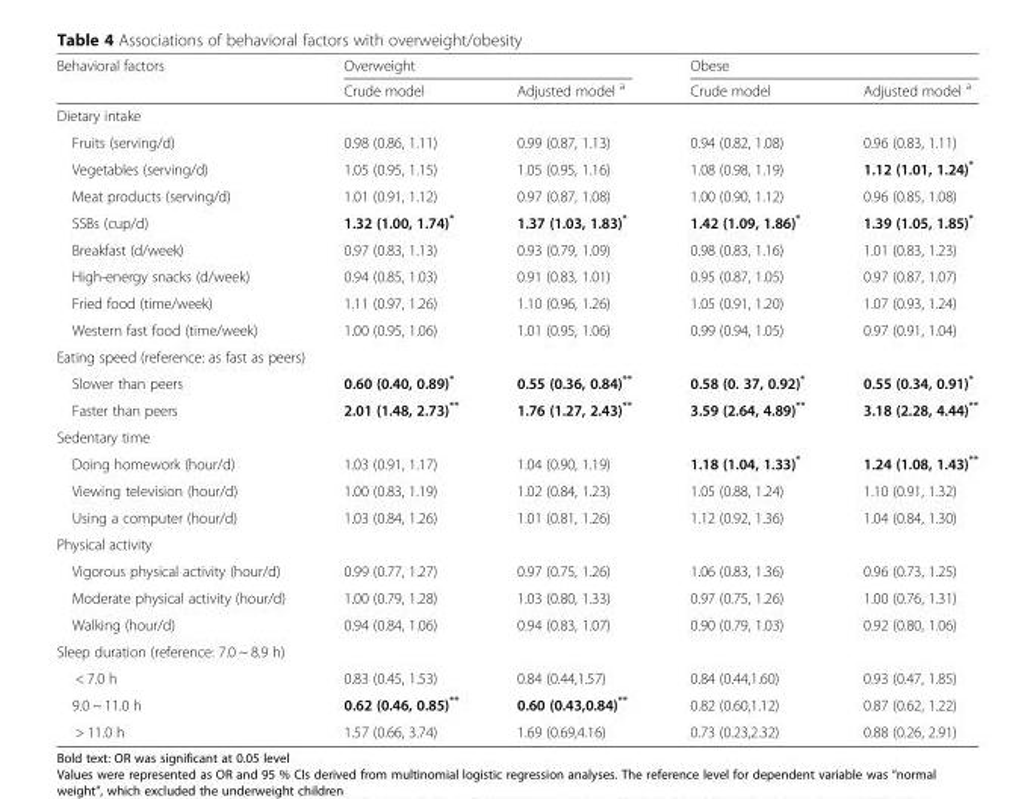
<table><thead><tr><td rowspan="2">Behavioral factors</td><td colspan="2">Overweight</td><td colspan="2">Obese</td></tr><tr><td>Crude model</td><td>Adjusted model <sup>a</sup></td><td>Crude model</td><td>Adjusted model <sup>a</sup></td></tr></thead><tbody><tr><td colspan="5">Dietary intake</td></tr><tr><td>Fruits (serving/d)</td><td>0.98 (0.86, 1.11)</td><td>0.99 (0.87, 1.13)</td><td>0.94 (0.82, 1.08)</td><td>0.96 (0.83, 1.11)</td></tr><tr><td>Vegetables (serving/d)</td><td>1.05 (0.95, 1.15)</td><td>1.05 (0.95, 1.16)</td><td>1.08 (0.98, 1.19)</td><td>1.12 (1.01, 1.24)*</td></tr><tr><td>Meat products (serving/d)</td><td>1.01 (0.91, 1.12)</td><td>0.97 (0.87, 1.08)</td><td>1.00 (0.90, 1.12)</td><td>0.96 (0.85, 1.08)</td></tr><tr><td>SSBs (cup/d)</td><td>1.32 (1.00, 1.74)*</td><td>1.37 (1.03, 1.83)*</td><td>1.42 (1.09, 1.86)*</td><td>1.39 (1.05, 1.85)*</td></tr><tr><td>Breakfast (d/week)</td><td>0.97 (0.83, 1.13)</td><td>0.93 (0.79, 1.09)</td><td>0.98 (0.83, 1.16)</td><td>1.01 (0.83, 1.23)</td></tr><tr><td>High-energy snacks (d/week)</td><td>0.94 (0.85, 1.03)</td><td>0.91 (0.83, 1.01)</td><td>0.95 (0.87, 1.05)</td><td>0.97 (0.87, 1.07)</td></tr><tr><td>Fried food (time/week)</td><td>1.11 (0.97, 1.26)</td><td>1.10 (0.96, 1.26)</td><td>1.05 (0.91, 1.20)</td><td>1.07 (0.93, 1.24)</td></tr><tr><td>Western fast food (time/week)</td><td>1.00 (0.95, 1.06)</td><td>1.01 (0.95, 1.06)</td><td>0.99 (0.94, 1.05)</td><td>0.97 (0.91, 1.04)</td></tr><tr><td colspan="5">Eating speed (reference: as fast as peers)</td></tr><tr><td>Slower than peers</td><td>0.60 (0.40, 0.89)*</td><td>0.55 (0.36, 0.84)**</td><td>0.58 (0. 37, 0.92)*</td><td>0.55 (0.34, 0.91)*</td></tr><tr><td>Faster than peers</td><td>2.01 (1.48, 2.73)**</td><td>1.76 (1.27, 2.43)**</td><td>3.59 (2.64, 4.89)**</td><td>3.18 (2.28, 4.44)**</td></tr><tr><td colspan="5">Sedentary time</td></tr><tr><td>Doing homework (hour/d)</td><td>1.03 (0.91, 1.17)</td><td>1.04 (0.90, 1.19)</td><td>1.18 (1.04, 1.33)*</td><td>1.24 (1.08, 1.43)**</td></tr><tr><td>Viewing television (hour/d)</td><td>1.00 (0.83, 1.19)</td><td>1.02 (0.84, 1.23)</td><td>1.05 (0.88, 1.24)</td><td>1.10 (0.91, 1.32)</td></tr><tr><td>Using a computer (hour/d)</td><td>1.03 (0.84, 1.26)</td><td>1.01 (0.81, 1.26)</td><td>1.12 (0.92, 1.36)</td><td>1.04 (0.84, 1.30)</td></tr><tr><td colspan="5">Physical activity</td></tr><tr><td>Vigorous physical activity (hour/d)</td><td>0.99 (0.77, 1.27)</td><td>0.97 (0.75, 1.26)</td><td>1.06 (0.83, 1.36)</td><td>0.96 (0.73, 1.25)</td></tr><tr><td>Moderate physical activity (hour/d)</td><td>1.00 (0.79, 1.28)</td><td>1.03 (0.80, 1.33)</td><td>0.97 (0.75, 1.26)</td><td>1.00 (0.76, 1.31)</td></tr><tr><td>Walking (hour/d)</td><td>0.94 (0.84, 1.06)</td><td>0.94 (0.83, 1.07)</td><td>0.90 (0.79, 1.03)</td><td>0.92 (0.80, 1.06)</td></tr><tr><td colspan="5">Sleep duration (reference: 7.0 ~ 8.9 h)</td></tr><tr><td>&lt; 7.0 h</td><td>0.83 (0.45, 1.53)</td><td>0.84 (0.44,1.57)</td><td>0.84 (0.44,1.60)</td><td>0.93 (0.47, 1.85)</td></tr><tr><td>9.0 ~ 11.0 h</td><td>0.62 (0.46, 0.85)**</td><td>0.60 (0.43,0.84)**</td><td>0.82 (0.60,1.12)</td><td>0.87 (0.62, 1.22)</td></tr><tr><td>&gt; 11.0 h</td><td>1.57 (0.66, 3.74)</td><td>1.69 (0.69,4.16)</td><td>0.73 (0.23,2.32)</td><td>0.88 (0.26, 2.91)</td></tr></tbody></table>